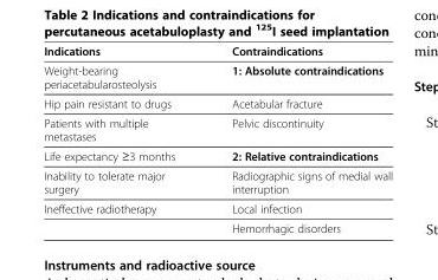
<table><thead><tr><td>Indications</td><td>Contraindications</td></tr></thead><tbody><tr><td>Weight-bearing periacetabularosteolysis</td><td>1: Absolute contraindications</td></tr><tr><td>Hip pain resistant to drugs</td><td>Acetabular fracture</td></tr><tr><td>Patients with multiple metastases</td><td>Pelvic discontinuity</td></tr><tr><td>Life expectancy ≥3 months</td><td>2: Relative contraindications</td></tr><tr><td>Inability to tolerate major surgery</td><td>Radiographic signs of medial wall interruption</td></tr><tr><td rowspan="2">Ineffective radiotherapy</td><td>Local infection</td></tr><tr><td>Hemorrhagic disorders</td></tr></tbody></table>